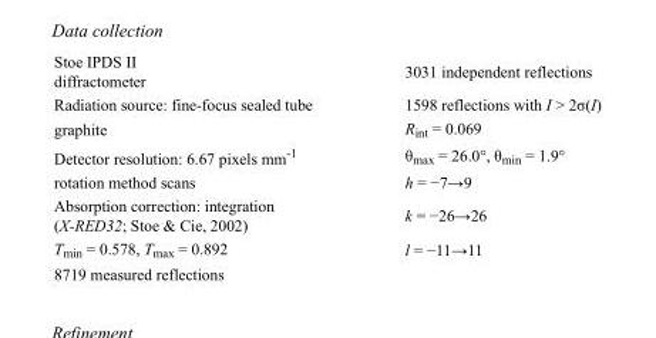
<table><tbody><tr><td>Stoe IPDS II diffractometer</td><td>3031 independent reflections</td></tr><tr><td>Radiation source: fine-focus sealed tube</td><td>1598 reflections with I &gt; 2σ(I)</td></tr><tr><td>graphite</td><td>R<sub>int</sub> = 0.069</td></tr><tr><td>Detector resolution: 6.67 pixels mm<sup>-1</sup></td><td>θ<sub>max</sub> = 26.0°, θ<sub>min</sub> = 1.9°</td></tr><tr><td>rotation method scans</td><td>h = −7→9</td></tr><tr><td>Absorption correction: integration (X-RED32; Stoe &amp; Cie, 2002)</td><td>k = −26→26</td></tr><tr><td>T<sub>min</sub> = 0.578, T<sub>max</sub> = 0.892</td><td>l = −11→11</td></tr><tr><td>8719 measured reflections</td><td></td></tr></tbody></table>